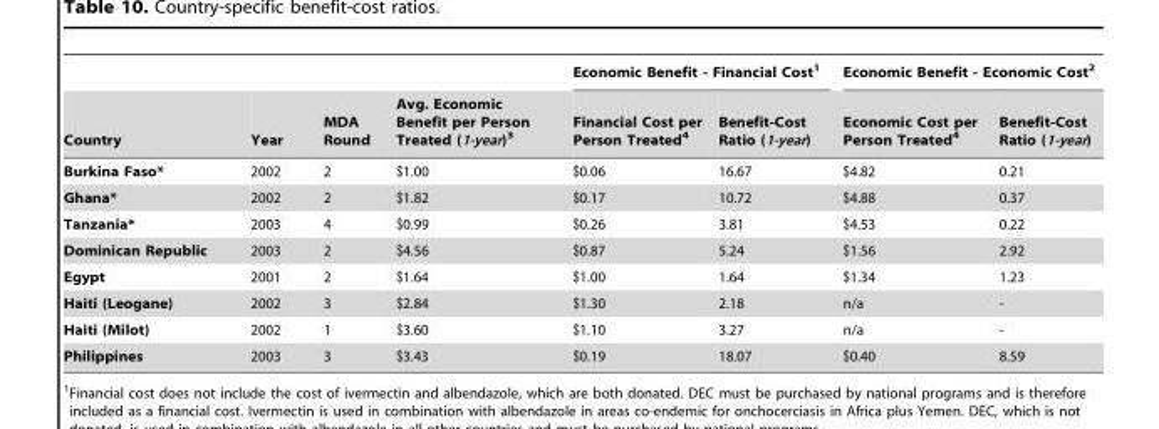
<table><thead><tr><td rowspan="2">Country</td><td rowspan="2">Year</td><td rowspan="2">MDA Round</td><td rowspan="2">Avg. Economic Benefit per Person Treated (1-year)<sup>3</sup></td><td colspan="2">Economic Benefit - Financial Cost<sup>1</sup></td><td colspan="2">Economic Benefit - Economic Cost<sup>2</sup></td></tr><tr><td>Financial Cost per Person Treated<sup>4</sup></td><td>Benefit-Cost Ratio (1-year)</td><td>Economic Cost per Person Treated<sup>4</sup></td><td>Benefit-Cost Ratio (1-year)</td></tr></thead><tbody><tr><td>Burkina Faso*</td><td>2002</td><td>2</td><td>$1.00</td><td>$0.06</td><td>16.67</td><td>$4.82</td><td>0.21</td></tr><tr><td>Ghana*</td><td>2002</td><td>2</td><td>$1.82</td><td>$0.17</td><td>10.72</td><td>$4.88</td><td>0.37</td></tr><tr><td>Tanzania*</td><td>2003</td><td>4</td><td>$0.99</td><td>$0.26</td><td>3.81</td><td>$4.53</td><td>0.22</td></tr><tr><td>Dominican Republic</td><td>2003</td><td>2</td><td>$4.56</td><td>$0.87</td><td>5.24</td><td>$1.56</td><td>2.92</td></tr><tr><td>Egypt</td><td>2001</td><td>2</td><td>$1.64</td><td>$1.00</td><td>1.64</td><td>$1.34</td><td>1.23</td></tr><tr><td>Haiti (Leogane)</td><td>2002</td><td>3</td><td>$2.84</td><td>$1.30</td><td>2.18</td><td>n/a</td><td>-</td></tr><tr><td>Haiti (Milot)</td><td>2002</td><td>1</td><td>$3.60</td><td>$1.10</td><td>3.27</td><td>n/a</td><td>-</td></tr><tr><td>Philippines</td><td>2003</td><td>3</td><td>$3.43</td><td>$0.19</td><td>18.07</td><td>$0.40</td><td>8.59</td></tr></tbody></table>